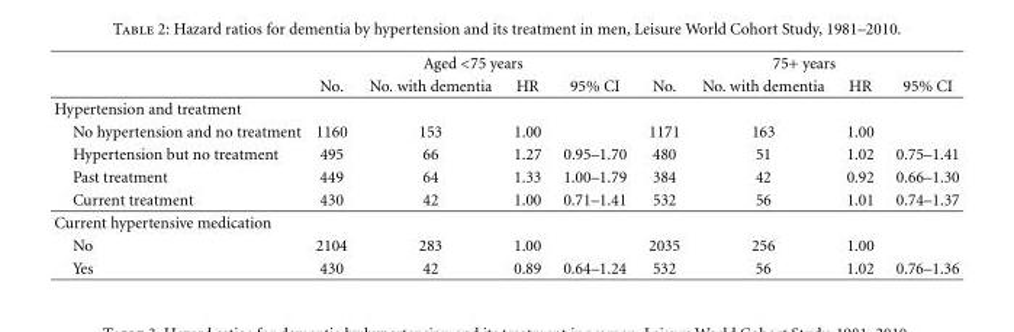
<table><thead><tr><td rowspan="2"></td><td colspan="4">Aged &lt;75 years</td><td colspan="4">75+ years</td></tr><tr><td>No.</td><td>No. with dementia</td><td>HR</td><td>95% CI</td><td>No.</td><td>No. with dementia</td><td>HR</td><td>95% CI</td></tr></thead><tbody><tr><td colspan="9">Hypertension and treatment</td></tr><tr><td>No hypertension and no treatment</td><td>1160</td><td>153</td><td>1.00</td><td></td><td>1171</td><td>163</td><td>1.00</td><td></td></tr><tr><td>Hypertension but no treatment</td><td>495</td><td>66</td><td>1.27</td><td>0.95–1.70</td><td>480</td><td>51</td><td>1.02</td><td>0.75–1.41</td></tr><tr><td>Past treatment</td><td>449</td><td>64</td><td>1.33</td><td>1.00–1.79</td><td>384</td><td>42</td><td>0.92</td><td>0.66–1.30</td></tr><tr><td>Current treatment</td><td>430</td><td>42</td><td>1.00</td><td>0.71–1.41</td><td>532</td><td>56</td><td>1.01</td><td>0.74–1.37</td></tr><tr><td colspan="9">Current hypertensive medication</td></tr><tr><td>No</td><td>2104</td><td>283</td><td>1.00</td><td></td><td>2035</td><td>256</td><td>1.00</td><td></td></tr><tr><td>Yes</td><td>430</td><td>42</td><td>0.89</td><td>0.64–1.24</td><td>532</td><td>56</td><td>1.02</td><td>0.76–1.36</td></tr></tbody></table>